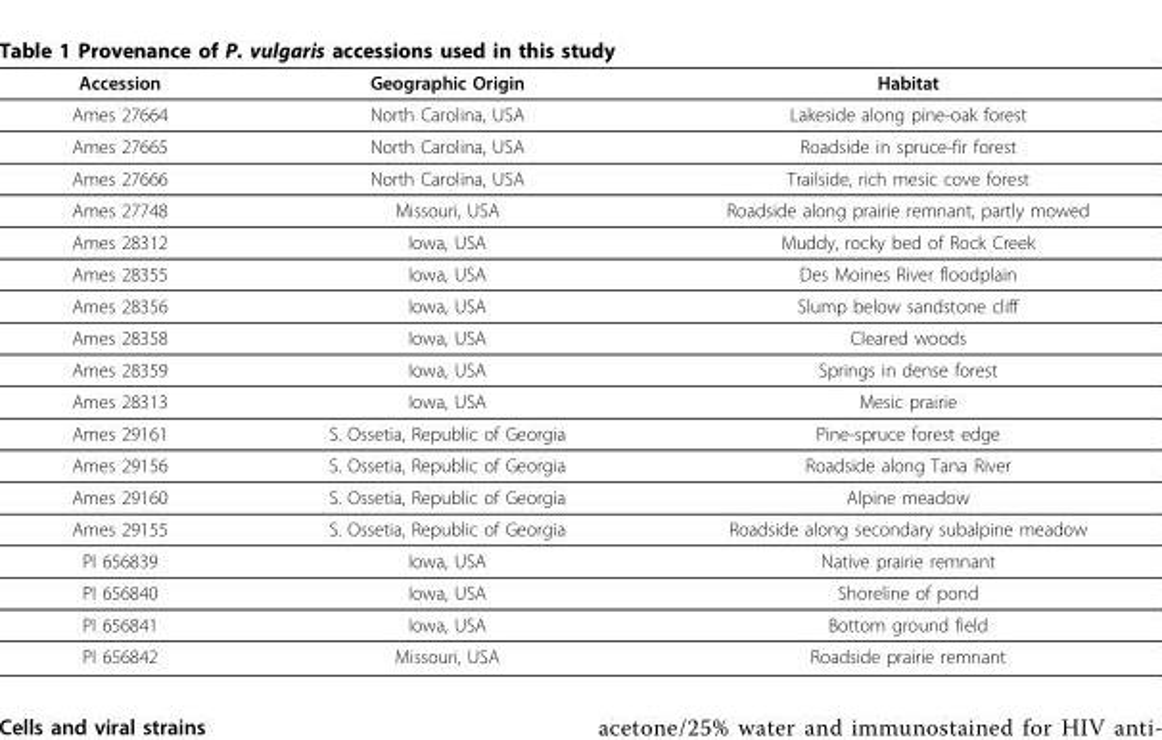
<table><thead><tr><td>Accession</td><td>Geographic Origin</td><td>Habitat</td></tr></thead><tbody><tr><td>Ames 27664</td><td>North Carolina, USA</td><td>Lakeside along pine-oak forest</td></tr><tr><td>Ames 27665</td><td>North Carolina, USA</td><td>Roadside in spruce-fir forest</td></tr><tr><td>Ames 27666</td><td>North Carolina, USA</td><td>Trailside, rich mesic cove forest</td></tr><tr><td>Ames 27748</td><td>Missouri, USA</td><td>Roadside along prairie remnant, partly mowed</td></tr><tr><td>Ames 28312</td><td>Iowa, USA</td><td>Muddy, rocky bed of Rock Creek</td></tr><tr><td>Ames 28355</td><td>Iowa, USA</td><td>Des Moines River floodplain</td></tr><tr><td>Ames 28356</td><td>Iowa, USA</td><td>Slump below sandstone cliff</td></tr><tr><td>Ames 28358</td><td>Iowa, USA</td><td>Cleared woods</td></tr><tr><td>Ames 28359</td><td>Iowa, USA</td><td>Springs in dense forest</td></tr><tr><td>Ames 28313</td><td>Iowa, USA</td><td>Mesic prairie</td></tr><tr><td>Ames 29161</td><td>S. Ossetia, Republic of Georgia</td><td>Pine-spruce forest edge</td></tr><tr><td>Ames 29156</td><td>S. Ossetia, Republic of Georgia</td><td>Roadside along Tana River</td></tr><tr><td>Ames 29160</td><td>S. Ossetia, Republic of Georgia</td><td>Alpine meadow</td></tr><tr><td>Ames 29155</td><td>S. Ossetia, Republic of Georgia</td><td>Roadside along secondary subalpine meadow</td></tr><tr><td>PI 656839</td><td>Iowa, USA</td><td>Native prairie remnant</td></tr><tr><td>PI 656840</td><td>Iowa, USA</td><td>Shoreline of pond</td></tr><tr><td>PI 656841</td><td>Iowa, USA</td><td>Bottom ground field</td></tr><tr><td>PI 656842</td><td>Missouri, USA</td><td>Roadside prairie remnant</td></tr></tbody></table>